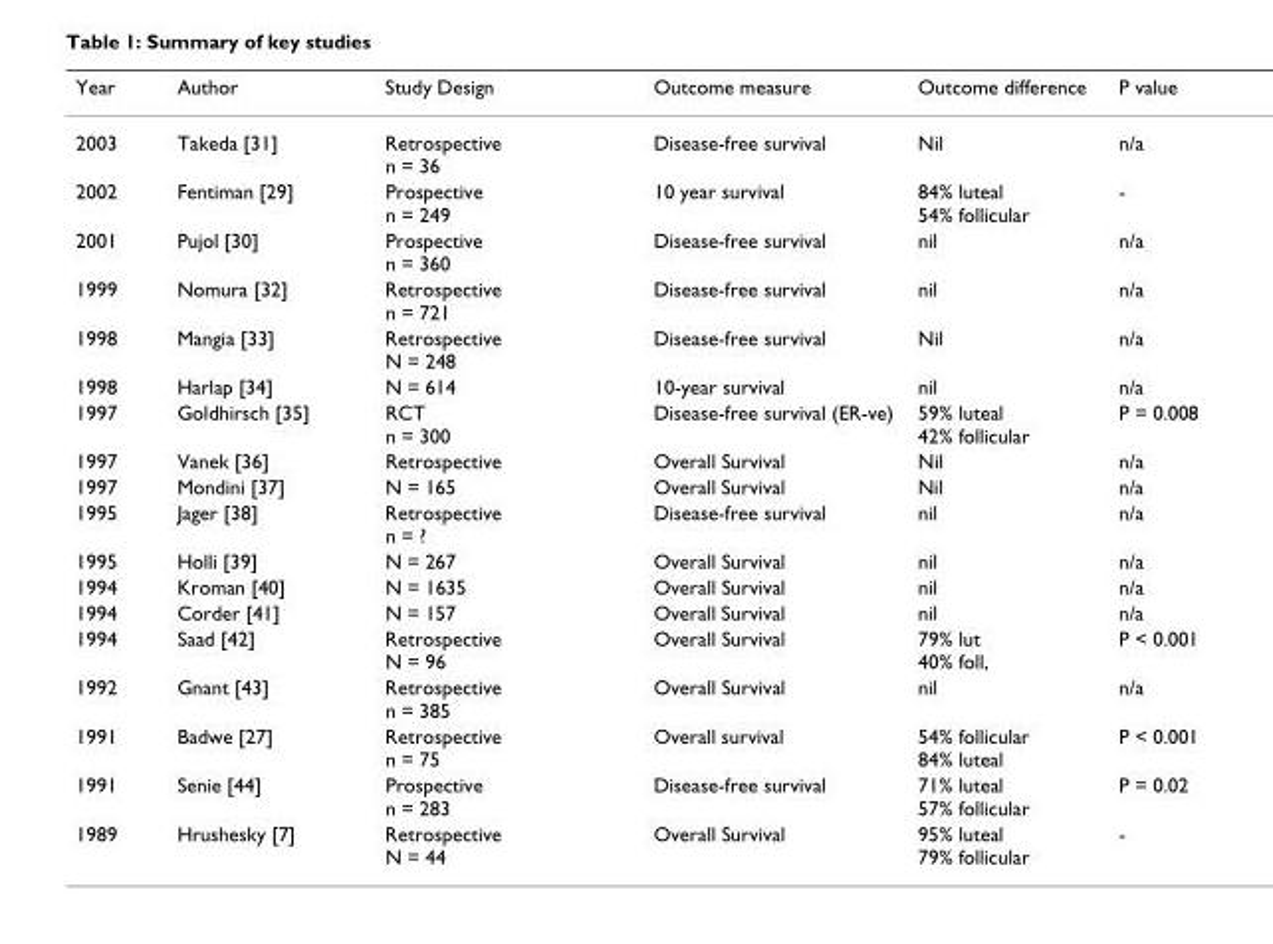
<table><thead><tr><td>Year</td><td>Author</td><td>Study Design</td><td>Outcome measure</td><td>Outcome difference</td><td>P value</td></tr></thead><tbody><tr><td>2003</td><td>Takeda [31]</td><td>Retrospective n = 36</td><td>Disease-free survival</td><td>Nil</td><td>n/a</td></tr><tr><td>2002</td><td>Fentiman [29]</td><td>Prospective n = 249</td><td>10 year survival</td><td>84% luteal 54% follicular</td><td>-</td></tr><tr><td>2001</td><td>Pujol [30]</td><td>Prospective n = 360</td><td>Disease-free survival</td><td>nil</td><td>n/a</td></tr><tr><td>1999</td><td>Nomura [32]</td><td>Retrospective n = 721</td><td>Disease-free survival</td><td>nil</td><td>n/a</td></tr><tr><td>1998</td><td>Mangia [33]</td><td>Retrospective N = 248</td><td>Disease-free survival</td><td>Nil</td><td>n/a</td></tr><tr><td>1998</td><td>Harlap [34]</td><td>N = 614</td><td>10-year survival</td><td>nil</td><td>n/a</td></tr><tr><td>1997</td><td>Goldhirsch [35]</td><td>RCT n = 300</td><td>Disease-free survival (ER-ve)</td><td>59% luteal 42% follicular</td><td>P = 0.008</td></tr><tr><td>1997</td><td>Vanek [36]</td><td>Retrospective</td><td>Overall Survival</td><td>Nil</td><td>n/a</td></tr><tr><td>1997</td><td>Mondini [37]</td><td>N = 165</td><td>Overall Survival</td><td>Nil</td><td>n/a</td></tr><tr><td>1995</td><td>Jager [38]</td><td>Retrospective n = ?</td><td>Disease-free survival</td><td>nil</td><td>n/a</td></tr><tr><td>1995</td><td>Holli [39]</td><td>N = 267</td><td>Overall Survival</td><td>nil</td><td>n/a</td></tr><tr><td>1994</td><td>Kroman [40]</td><td>N = 1635</td><td>Overall Survival</td><td>nil</td><td>n/a</td></tr><tr><td>1994</td><td>Corder [41]</td><td>N = 157</td><td>Overall Survival</td><td>nil</td><td>n/a</td></tr><tr><td>1994</td><td>Saad [42]</td><td>Retrospective N = 96</td><td>Overall Survival</td><td>79% lut 40% foll,</td><td>P &lt; 0.001</td></tr><tr><td>1992</td><td>Gnant [43]</td><td>Retrospective n = 385</td><td>Overall Survival</td><td>nil</td><td>n/a</td></tr><tr><td>1991</td><td>Badwe [27]</td><td>Retrospective n = 75</td><td>Overall survival</td><td>54% follicular 84% luteal</td><td>P &lt; 0.001</td></tr><tr><td>1991</td><td>Senie [44]</td><td>Prospective n = 283</td><td>Disease-free survival</td><td>71% luteal 57% follicular</td><td>P = 0.02</td></tr><tr><td>1989</td><td>Hrushesky [7]</td><td>Retrospective N = 44</td><td>Overall Survival</td><td>95% luteal 79% follicular</td><td>-</td></tr></tbody></table>